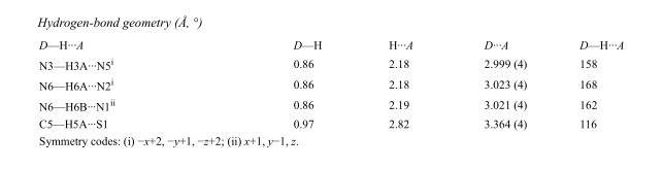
<table><tbody><tr><td>D—H···A</td><td>D—H</td><td>H···A</td><td>D···A</td><td>D—H···A</td></tr><tr><td>N3—H3A···N5<sup>i</sup></td><td>0.86</td><td>2.18</td><td>2.999 (4)</td><td>158</td></tr><tr><td>N6—H6A···N2<sup>i</sup></td><td>0.86</td><td>2.18</td><td>3.023 (4)</td><td>168</td></tr><tr><td>N6—H6B···N1<sup>ii</sup></td><td>0.86</td><td>2.19</td><td>3.021 (4)</td><td>162</td></tr><tr><td>C5—H5A···S1</td><td>0.97</td><td>2.82</td><td>3.364 (4)</td><td>116</td></tr></tbody></table>